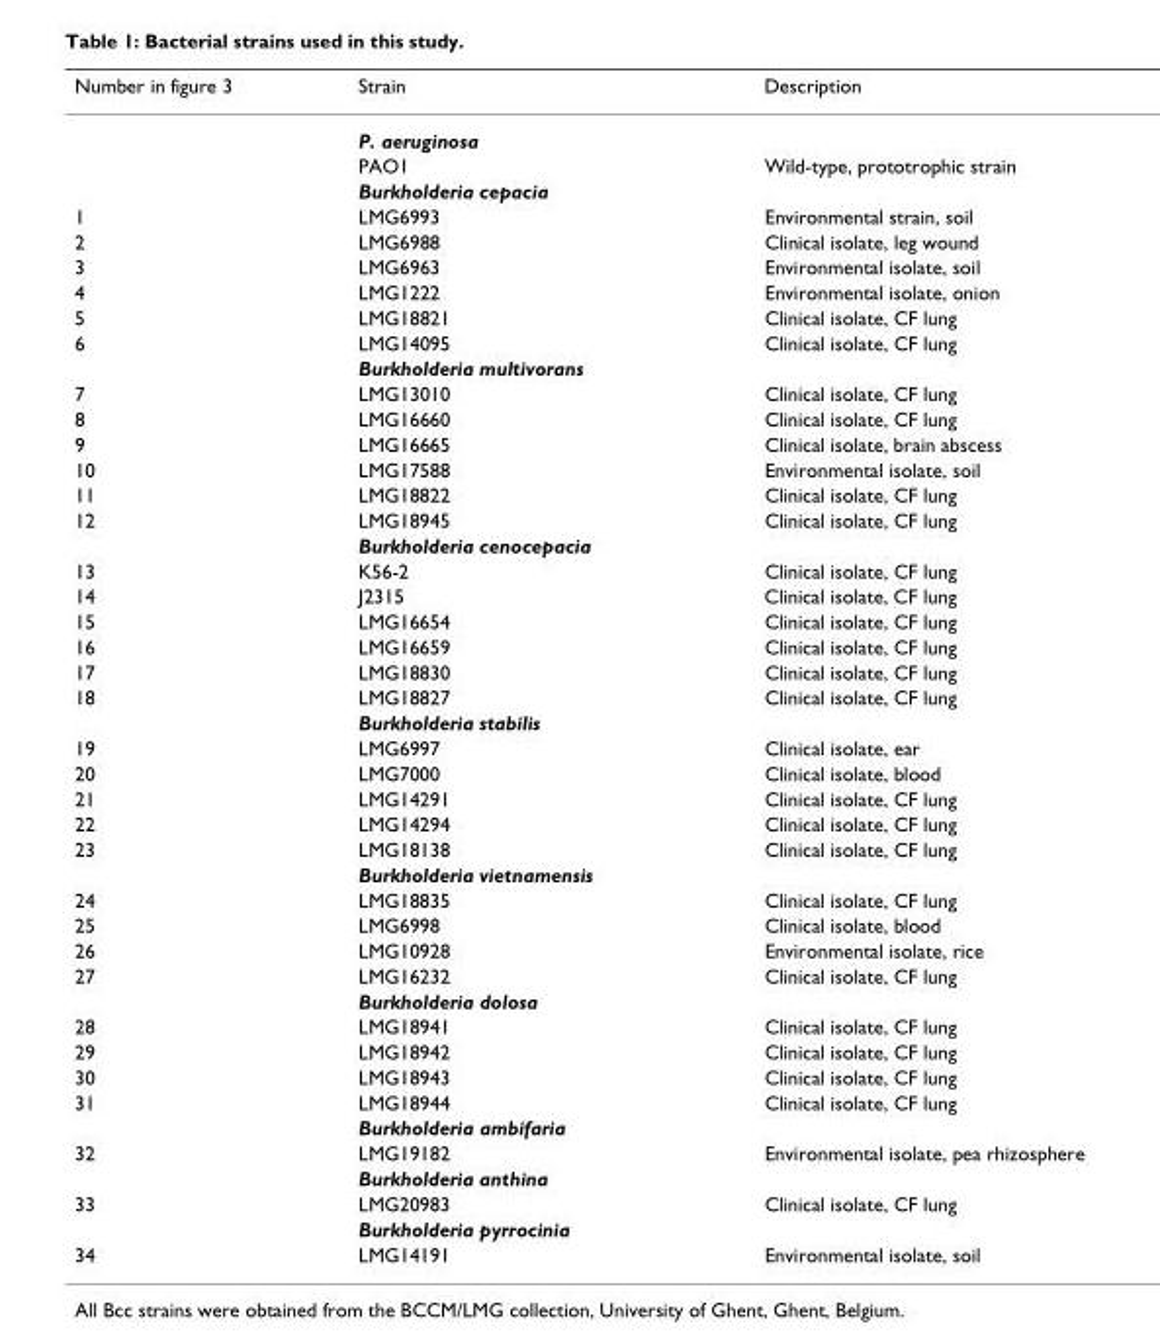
<table><thead><tr><td>Number in figure 3</td><td>Strain</td><td>Description</td></tr></thead><tbody><tr><td></td><td>P. aeruginosa</td><td></td></tr><tr><td></td><td>PAO1</td><td>Wild-type, prototrophic strain</td></tr><tr><td></td><td>Burkholderia cepacia</td><td></td></tr><tr><td>1</td><td>LMG6993</td><td>Environmental strain, soil</td></tr><tr><td>2</td><td>LMG6988</td><td>Clinical isolate, leg wound</td></tr><tr><td>3</td><td>LMG6963</td><td>Environmental isolate, soil</td></tr><tr><td>4</td><td>LMG1222</td><td>Environmental isolate, onion</td></tr><tr><td>5</td><td>LMG18821</td><td>Clinical isolate, CF lung</td></tr><tr><td rowspan="2">6</td><td>LMG14095</td><td>Clinical isolate, CF lung</td></tr><tr><td>Burkholderia multivorans</td><td></td></tr><tr><td>7</td><td>LMG13010</td><td>Clinical isolate, CF lung</td></tr><tr><td>8</td><td>LMG16660</td><td>Clinical isolate, CF lung</td></tr><tr><td>9</td><td>LMG16665</td><td>Clinical isolate, brain abscess</td></tr><tr><td>10</td><td>LMG17588</td><td>Environmental isolate, soil</td></tr><tr><td>11</td><td>LMG18822</td><td>Clinical isolate, CF lung</td></tr><tr><td rowspan="2">12</td><td>LMG18945</td><td>Clinical isolate, CF lung</td></tr><tr><td>Burkholderia cenocepacia</td><td></td></tr><tr><td>13</td><td>K56-2</td><td>Clinical isolate, CF lung</td></tr><tr><td>14</td><td>J2315</td><td>Clinical isolate, CF lung</td></tr><tr><td>15</td><td>LMG16654</td><td>Clinical isolate, CF lung</td></tr><tr><td>16</td><td>LMG16659</td><td>Clinical isolate, CF lung</td></tr><tr><td>17</td><td>LMG18830</td><td>Clinical isolate, CF lung</td></tr><tr><td rowspan="2">18</td><td>LMG18827</td><td>Clinical isolate, CF lung</td></tr><tr><td>Burkholderia stabilis</td><td></td></tr><tr><td>19</td><td>LMG6997</td><td>Clinical isolate, ear</td></tr><tr><td>20</td><td>LMG7000</td><td>Clinical isolate, blood</td></tr><tr><td>21</td><td>LMG14291</td><td>Clinical isolate, CF lung</td></tr><tr><td>22</td><td>LMG14294</td><td>Clinical isolate, CF lung</td></tr><tr><td rowspan="2">23</td><td>LMG18138</td><td>Clinical isolate, CF lung</td></tr><tr><td>Burkholderia vietnamensis</td><td></td></tr><tr><td>24</td><td>LMG18835</td><td>Clinical isolate, CF lung</td></tr><tr><td>25</td><td>LMG6998</td><td>Clinical isolate, blood</td></tr><tr><td>26</td><td>LMG10928</td><td>Environmental isolate, rice</td></tr><tr><td rowspan="2">27</td><td>LMG16232</td><td>Clinical isolate, CF lung</td></tr><tr><td>Burkholderia dolosa</td><td></td></tr><tr><td>28</td><td>LMG18941</td><td>Clinical isolate, CF lung</td></tr><tr><td>29</td><td>LMG18942</td><td>Clinical isolate, CF lung</td></tr><tr><td>30</td><td>LMG18943</td><td>Clinical isolate, CF lung</td></tr><tr><td rowspan="2">31</td><td>LMG18944</td><td>Clinical isolate, CF lung</td></tr><tr><td>Burkholderia ambifaria</td><td></td></tr><tr><td rowspan="2">32</td><td>LMG19182</td><td>Environmental isolate, pea rhizosphere</td></tr><tr><td>Burkholderia anthina</td><td></td></tr><tr><td rowspan="2">33</td><td>LMG20983</td><td>Clinical isolate, CF lung</td></tr><tr><td>Burkholderia pyrrocinia</td><td></td></tr><tr><td>34</td><td>LMG14191</td><td>Environmental isolate, soil</td></tr></tbody></table>